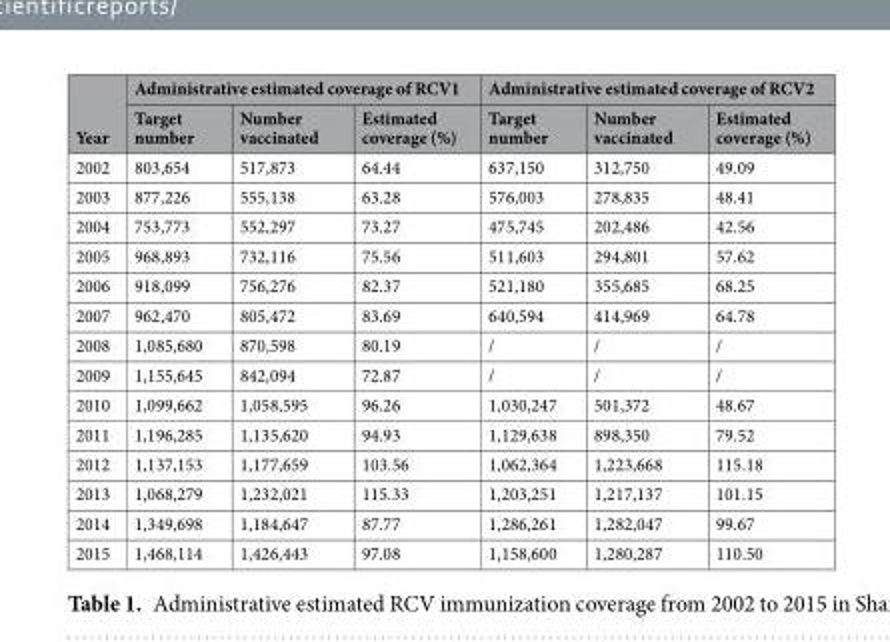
<table><thead><tr><td rowspan="2">Year</td><td colspan="3">Administrative estimated coverage of RCV1</td><td colspan="3">Administrative estimated coverage of RCV2</td></tr><tr><td>Target number</td><td>Number vaccinated</td><td>Estimated coverage (%)</td><td>Target number</td><td>Number vaccinated</td><td>Estimated coverage (%)</td></tr></thead><tbody><tr><td>2002</td><td>803,654</td><td>517,873</td><td>64.44</td><td>637,150</td><td>312,750</td><td>49.09</td></tr><tr><td>2003</td><td>877,226</td><td>555,138</td><td>63.28</td><td>576,003</td><td>278,835</td><td>48.41</td></tr><tr><td>2004</td><td>753,773</td><td>552,297</td><td>73.27</td><td>475,745</td><td>202,486</td><td>42.56</td></tr><tr><td>2005</td><td>968,893</td><td>732,116</td><td>75.56</td><td>511,603</td><td>294,801</td><td>57.62</td></tr><tr><td>2006</td><td>918,099</td><td>756,276</td><td>82.37</td><td>521,180</td><td>355,685</td><td>68.25</td></tr><tr><td>2007</td><td>962,470</td><td>805,472</td><td>83.69</td><td>640,594</td><td>414,969</td><td>64.78</td></tr><tr><td>2008</td><td>1,085,680</td><td>870,598</td><td>80.19</td><td>/</td><td>/</td><td>/</td></tr><tr><td>2009</td><td>1,155,645</td><td>842,094</td><td>72.87</td><td>/</td><td>/</td><td>/</td></tr><tr><td>2010</td><td>1,099,662</td><td>1,058,595</td><td>96.26</td><td>1,030,247</td><td>501,372</td><td>48.67</td></tr><tr><td>2011</td><td>1,196,285</td><td>1,135,620</td><td>94.93</td><td>1,129,638</td><td>898,350</td><td>79.52</td></tr><tr><td>2012</td><td>1,137,153</td><td>1,177,659</td><td>103.56</td><td>1,062,364</td><td>1,223,668</td><td>115.18</td></tr><tr><td>2013</td><td>1,068,279</td><td>1,232,021</td><td>115.33</td><td>1,203,251</td><td>1,217,137</td><td>101.15</td></tr><tr><td>2014</td><td>1,349,698</td><td>1,184,647</td><td>87.77</td><td>1,286,261</td><td>1,282,047</td><td>99.67</td></tr><tr><td>2015</td><td>1,468,114</td><td>1,426,443</td><td>97.08</td><td>1,158,600</td><td>1,280,287</td><td>110.50</td></tr></tbody></table>